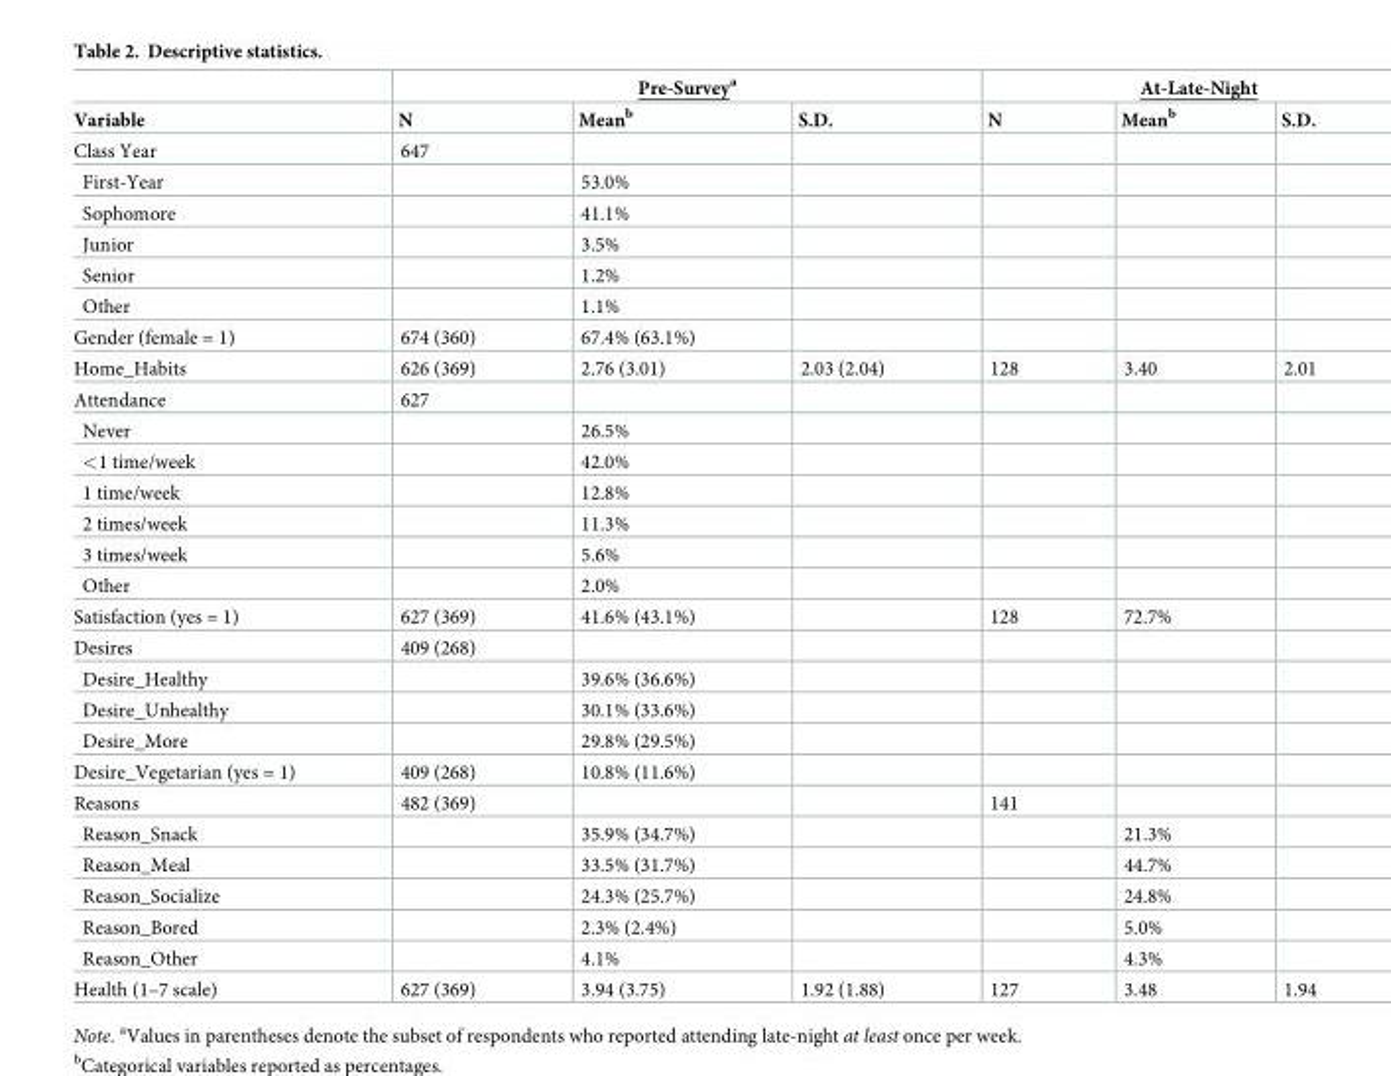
<table><thead><tr><td rowspan="2">Variable</td><td colspan="3">Pre-Survey<sup>a</sup></td><td colspan="3">At-Late-Night</td></tr><tr><td>N</td><td>Mean<sup>b</sup></td><td>S.D.</td><td>N</td><td>Mean<sup>b</sup></td><td>S.D.</td></tr></thead><tbody><tr><td>Class Year</td><td>647</td><td></td><td></td><td></td><td></td><td></td></tr><tr><td>First-Year</td><td></td><td>53.0%</td><td></td><td></td><td></td><td></td></tr><tr><td>Sophomore</td><td></td><td>41.1%</td><td></td><td></td><td></td><td></td></tr><tr><td>Junior</td><td></td><td>3.5%</td><td></td><td></td><td></td><td></td></tr><tr><td>Senior</td><td></td><td>1.2%</td><td></td><td></td><td></td><td></td></tr><tr><td>Other</td><td></td><td>1.1%</td><td></td><td></td><td></td><td></td></tr><tr><td>Gender (female = 1)</td><td>674 (360)</td><td>67.4% (63.1%)</td><td></td><td></td><td></td><td></td></tr><tr><td>Home_Habits</td><td>626 (369)</td><td>2.76 (3.01)</td><td>2.03 (2.04)</td><td>128</td><td>3.40</td><td>2.01</td></tr><tr><td>Attendance</td><td>627</td><td></td><td></td><td></td><td></td><td></td></tr><tr><td>Never</td><td></td><td>26.5%</td><td></td><td></td><td></td><td></td></tr><tr><td>&lt;1 time/week</td><td></td><td>42.0%</td><td></td><td></td><td></td><td></td></tr><tr><td>1 time/week</td><td></td><td>12.8%</td><td></td><td></td><td></td><td></td></tr><tr><td>2 times/week</td><td></td><td>11.3%</td><td></td><td></td><td></td><td></td></tr><tr><td>3 times/week</td><td></td><td>5.6%</td><td></td><td></td><td></td><td></td></tr><tr><td>Other</td><td></td><td>2.0%</td><td></td><td></td><td></td><td></td></tr><tr><td>Satisfaction (yes = 1)</td><td>627 (369)</td><td>41.6% (43.1%)</td><td></td><td>128</td><td>72.7%</td><td></td></tr><tr><td>Desires</td><td>409 (268)</td><td></td><td></td><td></td><td></td><td></td></tr><tr><td>Desire_Healthy</td><td></td><td>39.6% (36.6%)</td><td></td><td></td><td></td><td></td></tr><tr><td>Desire_Unhealthy</td><td></td><td>30.1% (33.6%)</td><td></td><td></td><td></td><td></td></tr><tr><td>Desire_More</td><td></td><td>29.8% (29.5%)</td><td></td><td></td><td></td><td></td></tr><tr><td>Desire_Vegetarian (yes = 1)</td><td>409 (268)</td><td>10.8% (11.6%)</td><td></td><td></td><td></td><td></td></tr><tr><td>Reasons</td><td>482 (369)</td><td></td><td></td><td>141</td><td></td><td></td></tr><tr><td>Reason_Snack</td><td></td><td>35.9% (34.7%)</td><td></td><td></td><td>21.3%</td><td></td></tr><tr><td>Reason_Meal</td><td></td><td>33.5% (31.7%)</td><td></td><td></td><td>44.7%</td><td></td></tr><tr><td>Reason_Socialize</td><td></td><td>24.3% (25.7%)</td><td></td><td></td><td>24.8%</td><td></td></tr><tr><td>Reason_Bored</td><td></td><td>2.3% (2.4%)</td><td></td><td></td><td>5.0%</td><td></td></tr><tr><td>Reason_Other</td><td></td><td>4.1%</td><td></td><td></td><td>4.3%</td><td></td></tr><tr><td>Health (1–7 scale)</td><td>627 (369)</td><td>3.94 (3.75)</td><td>1.92 (1.88)</td><td>127</td><td>3.48</td><td>1.94</td></tr></tbody></table>